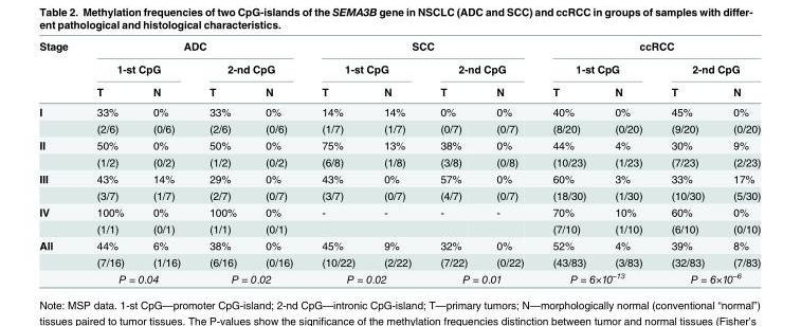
<table><thead><tr><td rowspan="3">Stage</td><td colspan="4">ADC</td><td colspan="4">SCC</td><td colspan="4">ccRCC</td></tr><tr><td colspan="2">1-st CpG</td><td colspan="2">2-nd CpG</td><td colspan="2">1-st CpG</td><td colspan="2">2-nd CpG</td><td colspan="2">1-st CpG</td><td colspan="2">2-nd CpG</td></tr><tr><td>T</td><td>N</td><td>T</td><td>N</td><td>T</td><td>N</td><td>T</td><td>N</td><td>T</td><td>N</td><td>T</td><td>N</td></tr></thead><tbody><tr><td rowspan="2">I</td><td>33%</td><td>0%</td><td>33%</td><td>0%</td><td>14%</td><td>14%</td><td>0%</td><td>0%</td><td>40%</td><td>0%</td><td>45%</td><td>0%</td></tr><tr><td>(2/6)</td><td>(0/6)</td><td>(2/6)</td><td>(0/6)</td><td>(1/7)</td><td>(1/7)</td><td>(0/7)</td><td>(0/7)</td><td>(8/20)</td><td>(0/20)</td><td>(9/20)</td><td>(0/20)</td></tr><tr><td rowspan="2">II</td><td>50%</td><td>0%</td><td>50%</td><td>0%</td><td>75%</td><td>13%</td><td>38%</td><td>0%</td><td>44%</td><td>4%</td><td>30%</td><td>9%</td></tr><tr><td>(1/2)</td><td>(0/2)</td><td>(1/2)</td><td>(0/2)</td><td>(6/8)</td><td>(1/8)</td><td>(3/8)</td><td>(0/8)</td><td>(10/23)</td><td>(1/23)</td><td>(7/23)</td><td>(2/23)</td></tr><tr><td rowspan="2">III</td><td>43%</td><td>14%</td><td>29%</td><td>0%</td><td>43%</td><td>0%</td><td>57%</td><td>0%</td><td>60%</td><td>3%</td><td>33%</td><td>17%</td></tr><tr><td>(3/7)</td><td>(1/7)</td><td>(2/7)</td><td>(0/7)</td><td>(3/7)</td><td>(0/7)</td><td>(4/7)</td><td>(0/7)</td><td>(18/30)</td><td>(1/30)</td><td>(10/30)</td><td>(5/30)</td></tr><tr><td rowspan="2">IV</td><td>100%</td><td>0%</td><td>100%</td><td>0%</td><td>-</td><td>-</td><td>-</td><td>-</td><td>70%</td><td>10%</td><td>60%</td><td>0%</td></tr><tr><td>(1/1)</td><td>(0/1)</td><td>(1/1)</td><td>(0/1)</td><td></td><td></td><td></td><td></td><td>(7/10)</td><td>(1/10)</td><td>(6/10)</td><td>(0/10)</td></tr><tr><td rowspan="3">All</td><td>44%</td><td>6%</td><td>38%</td><td>0%</td><td>45%</td><td>9%</td><td>32%</td><td>0%</td><td>52%</td><td>4%</td><td>39%</td><td>8%</td></tr><tr><td>(7/16)</td><td>(1/16)</td><td>(6/16)</td><td>(0/16)</td><td>(10/22)</td><td>(2/22)</td><td>(7/22)</td><td>(0/22)</td><td>(43/83)</td><td>(3/83)</td><td>(32/83)</td><td>(7/83)</td></tr><tr><td colspan="2">P = 0.04</td><td colspan="2">P = 0.02</td><td colspan="2">P = 0.02</td><td colspan="2">P = 0.01</td><td colspan="2">P = 6×10<sup>–13</sup></td><td colspan="2">P = 6×10<sup>–6</sup></td></tr></tbody></table>